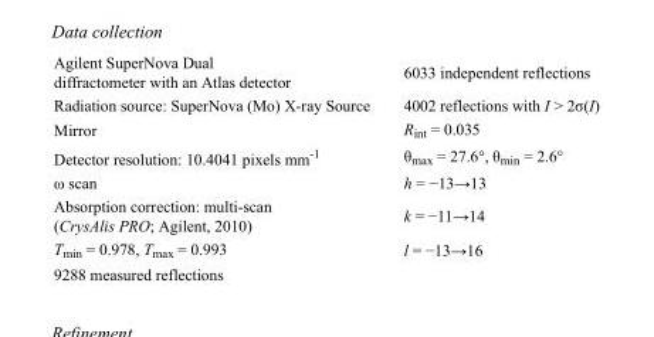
<table><tbody><tr><td>Agilent SuperNova Dual diffractometer with an Atlas detector</td><td>6033 independent reflections</td></tr><tr><td>Radiation source: SuperNova (Mo) X-ray Source</td><td>4002 reflections with I &gt; 2σ(I)</td></tr><tr><td>Mirror</td><td>R<sub>int</sub> = 0.035</td></tr><tr><td>Detector resolution: 10.4041 pixels mm<sup>-1</sup></td><td>θ<sub>max</sub> = 27.6°, θ<sub>min</sub> = 2.6°</td></tr><tr><td>ω scan</td><td>h = −13→13</td></tr><tr><td>Absorption correction: multi-scan (CrysAlis PRO; Agilent, 2010)</td><td>k = −11→14</td></tr><tr><td>T<sub>min</sub> = 0.978, T<sub>max</sub> = 0.993</td><td>l = −13→16</td></tr><tr><td>9288 measured reflections</td><td></td></tr></tbody></table>